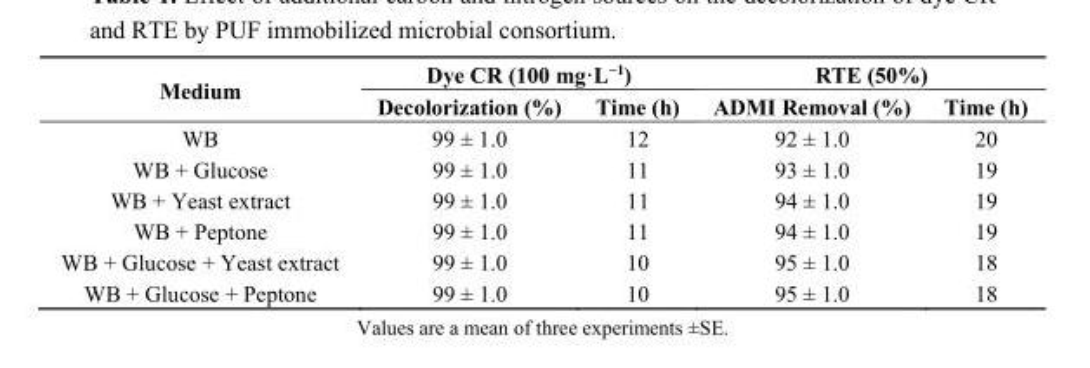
<table><thead><tr><td rowspan="2">Medium</td><td colspan="2">Dye CR (100 mg·L<sup>−1</sup>)</td><td colspan="2">RTE (50%)</td></tr><tr><td>Decolorization (%)</td><td>Time (h)</td><td>ADMI Removal (%)</td><td>Time (h)</td></tr></thead><tbody><tr><td>WB</td><td>99 ± 1.0</td><td>12</td><td>92 ± 1.0</td><td>20</td></tr><tr><td>WB + Glucose</td><td>99 ± 1.0</td><td>11</td><td>93 ± 1.0</td><td>19</td></tr><tr><td>WB + Yeast extract</td><td>99 ± 1.0</td><td>11</td><td>94 ± 1.0</td><td>19</td></tr><tr><td>WB + Peptone</td><td>99 ± 1.0</td><td>11</td><td>94 ± 1.0</td><td>19</td></tr><tr><td>WB + Glucose + Yeast extract</td><td>99 ± 1.0</td><td>10</td><td>95 ± 1.0</td><td>18</td></tr><tr><td>WB + Glucose + Peptone</td><td>99 ± 1.0</td><td>10</td><td>95 ± 1.0</td><td>18</td></tr></tbody></table>